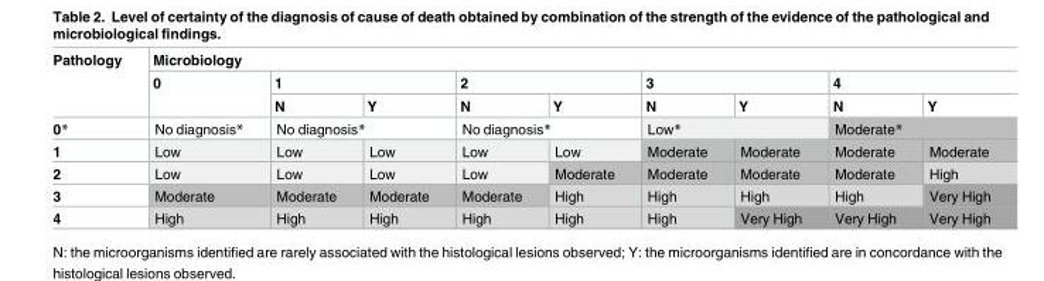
<table><thead><tr><td rowspan="3">Pathology</td><td colspan="9">Microbiology</td></tr><tr><td rowspan="2">0</td><td colspan="2">1</td><td colspan="2">2</td><td colspan="2">3</td><td colspan="2">4</td></tr><tr><td>N</td><td>Y</td><td>N</td><td>Y</td><td>N</td><td>Y</td><td>N</td><td>Y</td></tr></thead><tbody><tr><td>0*</td><td>No diagnosis*</td><td colspan="2">No diagnosis*</td><td colspan="2">No diagnosis*</td><td colspan="2">Low*</td><td colspan="2">Moderate*</td></tr><tr><td>1</td><td>Low</td><td>Low</td><td>Low</td><td>Low</td><td>Low</td><td>Moderate</td><td>Moderate</td><td>Moderate</td><td>Moderate</td></tr><tr><td>2</td><td>Low</td><td>Low</td><td>Low</td><td>Low</td><td>Moderate</td><td>Moderate</td><td>Moderate</td><td>Moderate</td><td>High</td></tr><tr><td>3</td><td>Moderate</td><td>Moderate</td><td>Moderate</td><td>Moderate</td><td>High</td><td>High</td><td>High</td><td>High</td><td>Very High</td></tr><tr><td>4</td><td>High</td><td>High</td><td>High</td><td>High</td><td>High</td><td>High</td><td>Very High</td><td>Very High</td><td>Very High</td></tr></tbody></table>